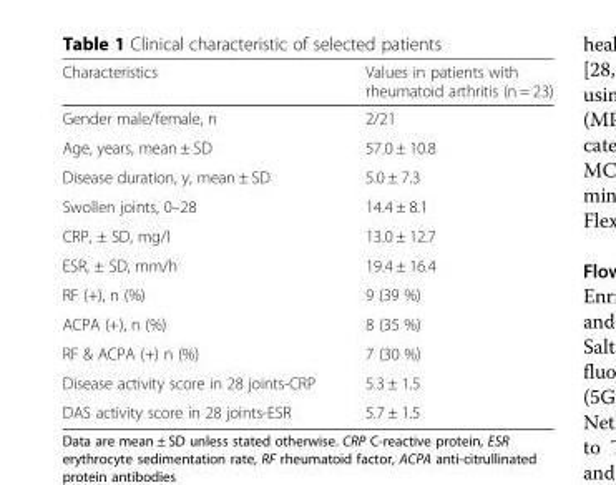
<table><thead><tr><td>Characteristics</td><td>Values in patients with rheumatoid arthritis (n = 23)</td></tr></thead><tbody><tr><td>Gender male/female, n</td><td>2/21</td></tr><tr><td>Age, years, mean ± SD</td><td>57.0 ± 10.8</td></tr><tr><td>Disease duration, y, mean ± SD</td><td>5.0 ± 7.3</td></tr><tr><td>Swollen joints, 0–28</td><td>14.4 ± 8.1</td></tr><tr><td>CRP, ± SD, mg/l</td><td>13.0 ± 12.7</td></tr><tr><td>ESR, ± SD, mm/h</td><td>19.4 ± 16.4</td></tr><tr><td>RF (+), n (%)</td><td>9 (39 %)</td></tr><tr><td>ACPA (+), n (%)</td><td>8 (35 %)</td></tr><tr><td>RF &amp; ACPA (+) n (%)</td><td>7 (30 %)</td></tr><tr><td>Disease activity score in 28 joints-CRP</td><td>5.3 ± 1.5</td></tr><tr><td>DAS activity score in 28 joints-ESR</td><td>5.7 ± 1.5</td></tr></tbody></table>